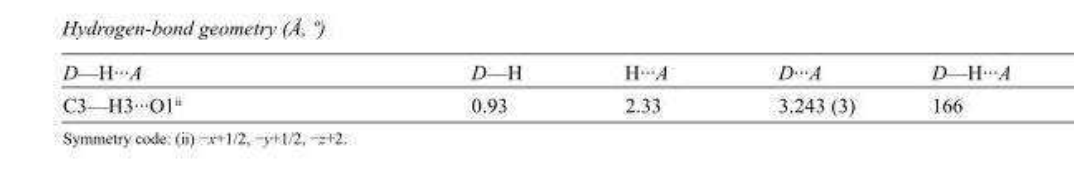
<table><tbody><tr><td>D—H···A</td><td>D—H</td><td>H···A</td><td>D···A</td><td>D—H···A</td></tr><tr><td>C3—H3···O1<sup>ii</sup></td><td>0.93</td><td>2.33</td><td>3.243 (3)</td><td>166</td></tr></tbody></table>